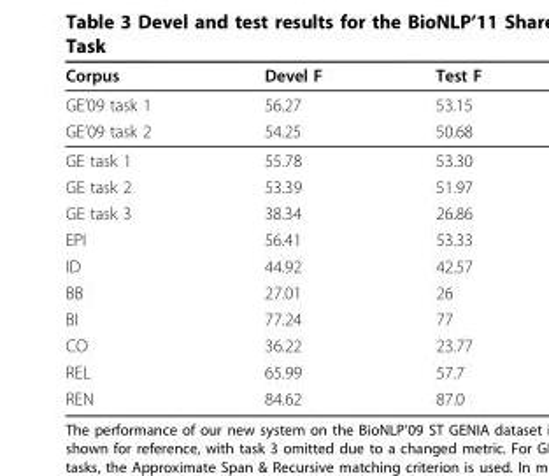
<table><thead><tr><td>Corpus</td><td>Devel F</td><td>Test F</td></tr></thead><tbody><tr><td>GE’09 task 1</td><td>56.27</td><td>53.15</td></tr><tr><td>GE’09 task 2</td><td>54.25</td><td>50.68</td></tr><tr><td>GE task 1</td><td>55.78</td><td>53.30</td></tr><tr><td>GE task 2</td><td>53.39</td><td>51.97</td></tr><tr><td>GE task 3</td><td>38.34</td><td>26.86</td></tr><tr><td>EPI</td><td>56.41</td><td>53.33</td></tr><tr><td>ID</td><td>44.92</td><td>42.57</td></tr><tr><td>BB</td><td>27.01</td><td>26</td></tr><tr><td>BI</td><td>77.24</td><td>77</td></tr><tr><td>CO</td><td>36.22</td><td>23.77</td></tr><tr><td>REL</td><td>65.99</td><td>57.7</td></tr><tr><td>REN</td><td>84.62</td><td>87.0</td></tr></tbody></table>